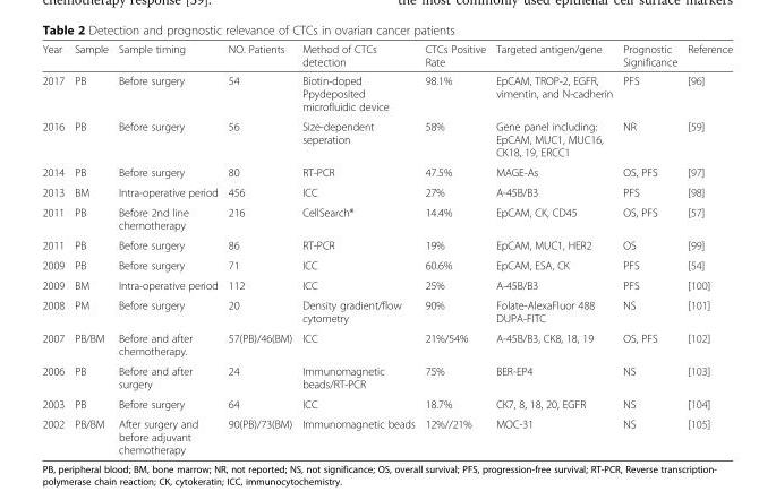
<table><thead><tr><td>Year</td><td>Sample</td><td>Sample timing</td><td>NO. Patients</td><td>Method of CTCs detection</td><td>CTCs Positive Rate</td><td>Targeted antigen/gene</td><td>Prognostic Significance</td><td>Reference</td></tr></thead><tbody><tr><td>2017</td><td>PB</td><td>Before surgery</td><td>54</td><td>Biotin-doped Ppydeposited microfluidic device</td><td>98.1%</td><td>EpCAM, TROP-2, EGFR, vimentin, and N-cadherin</td><td>PFS</td><td>[96]</td></tr><tr><td>2016</td><td>PB</td><td>Before surgery</td><td>56</td><td>Size-dependent seperation</td><td>58%</td><td>Gene panel including: EpCAM, MUC1, MUC16, CK18, 19, ERCC1</td><td>NR</td><td>[59]</td></tr><tr><td>2014</td><td>PB</td><td>Before surgery</td><td>80</td><td>RT-PCR</td><td>47.5%</td><td>MAGE-As</td><td>OS, PFS</td><td>[97]</td></tr><tr><td>2013</td><td>BM</td><td>Intra-operative period</td><td>456</td><td>ICC</td><td>27%</td><td>A-45B/B3</td><td>PFS</td><td>[98]</td></tr><tr><td>2011</td><td>PB</td><td>Before 2nd line chemotherapy</td><td>216</td><td>CellSearch®</td><td>14.4%</td><td>EpCAM, CK, CD45</td><td>OS, PFS</td><td>[57]</td></tr><tr><td>2011</td><td>PB</td><td>Before surgery</td><td>86</td><td>RT-PCR</td><td>19%</td><td>EpCAM, MUC1, HER2</td><td>OS</td><td>[99]</td></tr><tr><td>2009</td><td>PB</td><td>Before surgery</td><td>71</td><td>ICC</td><td>60.6%</td><td>EpCAM, ESA, CK</td><td>PFS</td><td>[54]</td></tr><tr><td>2009</td><td>BM</td><td>Intra-operative period</td><td>112</td><td>ICC</td><td>25%</td><td>A-45B/B3</td><td>PFS</td><td>[100]</td></tr><tr><td>2008</td><td>PM</td><td>Before surgery</td><td>20</td><td>Density gradient/flow cytometry</td><td>90%</td><td>Folate-AlexaFluor 488 DUPA-FITC</td><td>NS</td><td>[101]</td></tr><tr><td>2007</td><td>PB/BM</td><td>Before and after chemotherapy.</td><td>57(PB)/46(BM)</td><td>ICC</td><td>21%/54%</td><td>A-45B/B3, CK8, 18, 19</td><td>OS, PFS</td><td>[102]</td></tr><tr><td>2006</td><td>PB</td><td>Before and after surgery</td><td>24</td><td>Immunomagnetic beads/RT-PCR</td><td>75%</td><td>BER-EP4</td><td>NS</td><td>[103]</td></tr><tr><td>2003</td><td>PB</td><td>Before surgery</td><td>64</td><td>ICC</td><td>18.7%</td><td>CK7, 8, 18, 20, EGFR</td><td>NS</td><td>[104]</td></tr><tr><td>2002</td><td>PB/BM</td><td>After surgery and before adjuvant chemotherapy</td><td>90(PB)/73(BM)</td><td>Immunomagnetic beads</td><td>12%//21%</td><td>MOC-31</td><td>NS</td><td>[105]</td></tr></tbody></table>